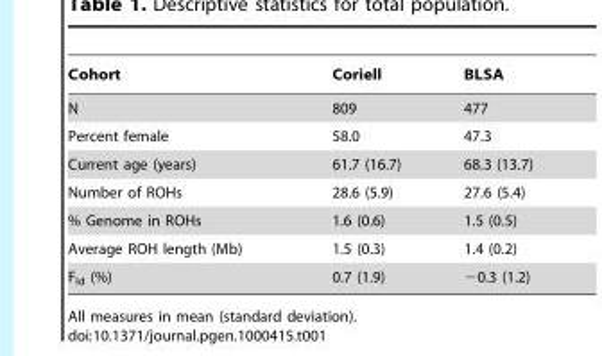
<table><thead><tr><td>Cohort</td><td>Coriell</td><td>BLSA</td></tr></thead><tbody><tr><td>N</td><td>809</td><td>477</td></tr><tr><td>Percent female</td><td>58.0</td><td>47.3</td></tr><tr><td>Current age (years)</td><td>61.7 (16.7)</td><td>68.3 (13.7)</td></tr><tr><td>Number of ROHs</td><td>28.6 (5.9)</td><td>27.6 (5.4)</td></tr><tr><td>% Genome in ROHs</td><td>1.6 (0.6)</td><td>1.5 (0.5)</td></tr><tr><td>Average ROH length (Mb)</td><td>1.5 (0.3)</td><td>1.4 (0.2)</td></tr><tr><td>F<sub>ld</sub> (%)</td><td>0.7 (1.9)</td><td>−0.3 (1.2)</td></tr></tbody></table>